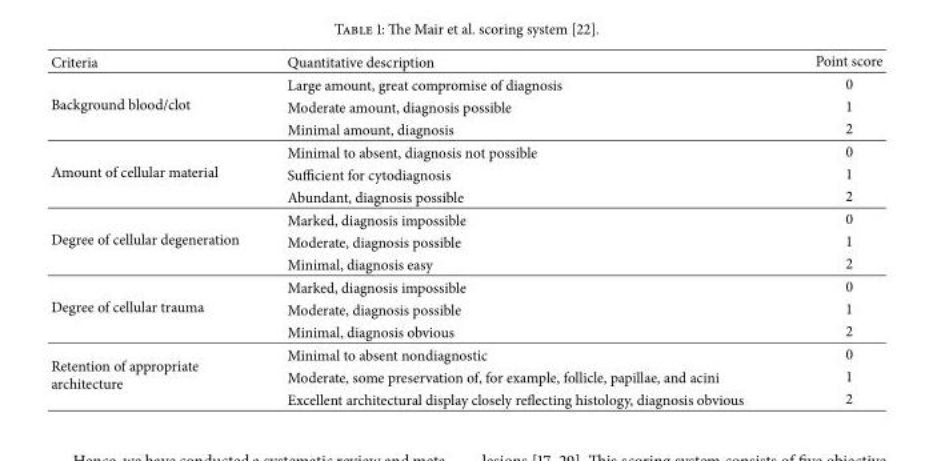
<table><thead><tr><td>Criteria</td><td>Quantitative description</td><td>Point score</td></tr></thead><tbody><tr><td rowspan="3">Background blood/clot</td><td>Large amount, great compromise of diagnosis</td><td>0</td></tr><tr><td>Moderate amount, diagnosis possible</td><td>1</td></tr><tr><td>Minimal amount, diagnosis</td><td>2</td></tr><tr><td rowspan="3">Amount of cellular material</td><td>Minimal to absent, diagnosis not possible</td><td>0</td></tr><tr><td>Sufficient for cytodiagnosis</td><td>1</td></tr><tr><td>Abundant, diagnosis possible</td><td>2</td></tr><tr><td rowspan="3">Degree of cellular degeneration</td><td>Marked, diagnosis impossible</td><td>0</td></tr><tr><td>Moderate, diagnosis possible</td><td>1</td></tr><tr><td>Minimal, diagnosis easy</td><td>2</td></tr><tr><td rowspan="3">Degree of cellular trauma</td><td>Marked, diagnosis impossible</td><td>0</td></tr><tr><td>Moderate, diagnosis possible</td><td>1</td></tr><tr><td>Minimal, diagnosis obvious</td><td>2</td></tr><tr><td rowspan="3">Retention of appropriate architecture</td><td>Minimal to absent nondiagnostic</td><td>0</td></tr><tr><td>Moderate, some preservation of, for example, follicle, papillae, and acini</td><td>1</td></tr><tr><td>Excellent architectural display closely reflecting histology, diagnosis obvious</td><td>2</td></tr></tbody></table>